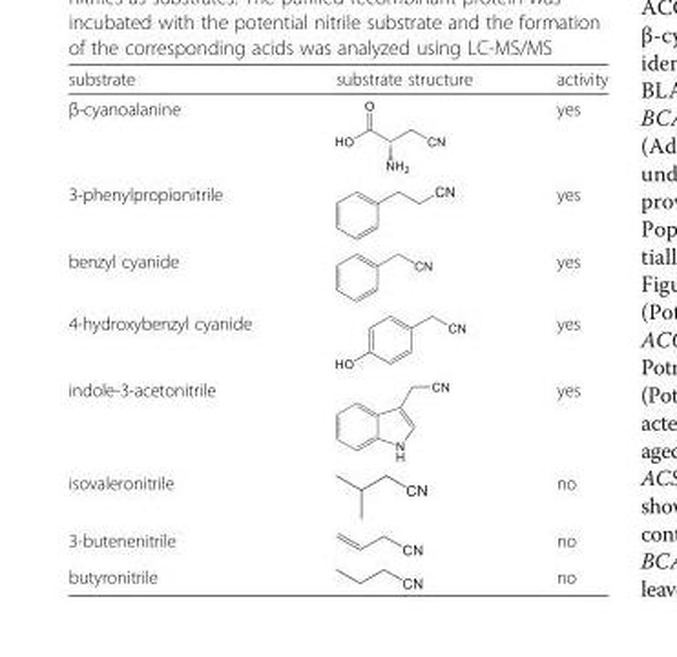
<table><thead><tr><td>substrate</td><td>substrate structure</td><td>activity</td></tr></thead><tbody><tr><td>β-cyanoalanine</td><td></td><td>yes</td></tr><tr><td>3-phenylpropionitrile</td><td></td><td>yes</td></tr><tr><td>benzyl cyanide</td><td></td><td>yes</td></tr><tr><td>4-hydroxybenzyl cyanide</td><td></td><td>yes</td></tr><tr><td>indole-3-acetonitrile</td><td></td><td>yes</td></tr><tr><td>isovaleronitrile</td><td></td><td>no</td></tr><tr><td>3-butenenitrile</td><td></td><td>no</td></tr><tr><td>butyronitrile</td><td></td><td>no</td></tr></tbody></table>